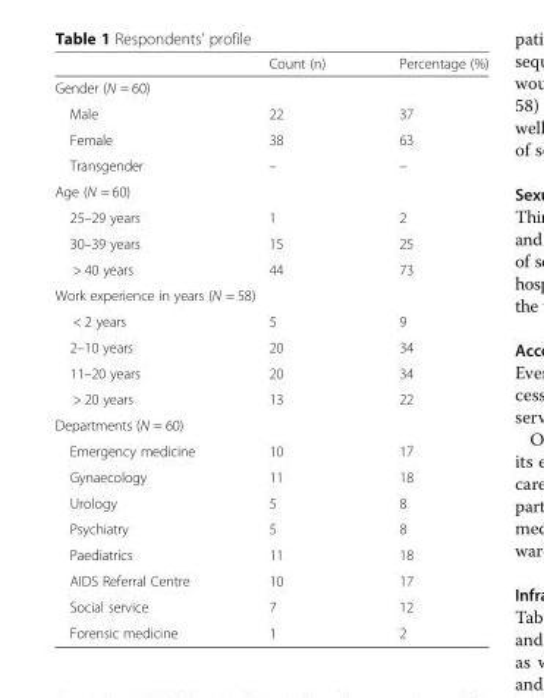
<table><thead><tr><td></td><td>Count (n)</td><td>Percentage (%)</td></tr></thead><tbody><tr><td colspan="3">Gender (N = 60)</td></tr><tr><td>Male</td><td>22</td><td>37</td></tr><tr><td>Female</td><td>38</td><td>63</td></tr><tr><td>Transgender</td><td>–</td><td>–</td></tr><tr><td colspan="3">Age (N = 60)</td></tr><tr><td>25–29 years</td><td>1</td><td>2</td></tr><tr><td>30–39 years</td><td>15</td><td>25</td></tr><tr><td>&gt; 40 years</td><td>44</td><td>73</td></tr><tr><td colspan="3">Work experience in years (N = 58)</td></tr><tr><td>&lt; 2 years</td><td>5</td><td>9</td></tr><tr><td>2–10 years</td><td>20</td><td>34</td></tr><tr><td>11–20 years</td><td>20</td><td>34</td></tr><tr><td>&gt; 20 years</td><td>13</td><td>22</td></tr><tr><td colspan="3">Departments (N = 60)</td></tr><tr><td>Emergency medicine</td><td>10</td><td>17</td></tr><tr><td>Gynaecology</td><td>11</td><td>18</td></tr><tr><td>Urology</td><td>5</td><td>8</td></tr><tr><td>Psychiatry</td><td>5</td><td>8</td></tr><tr><td>Paediatrics</td><td>11</td><td>18</td></tr><tr><td>AIDS Referral Centre</td><td>10</td><td>17</td></tr><tr><td>Social service</td><td>7</td><td>12</td></tr><tr><td>Forensic medicine</td><td>1</td><td>2</td></tr></tbody></table>